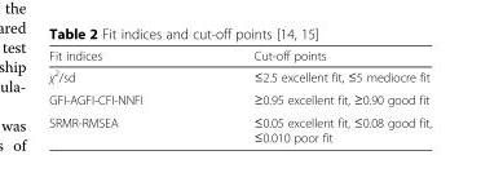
<table><thead><tr><td>Fit indices</td><td>Cut-off points</td></tr></thead><tbody><tr><td>χ<sup>2</sup>/sd</td><td>≤2.5 excellent fit, ≤5 mediocre fit</td></tr><tr><td>GFI-AGFI-CFI-NNFI</td><td>≥0.95 excellent fit, ≥0.90 good fit</td></tr><tr><td>SRMR-RMSEA</td><td>≤0.05 excellent fit, ≤0.08 good fit, ≤0.010 poor fit</td></tr></tbody></table>